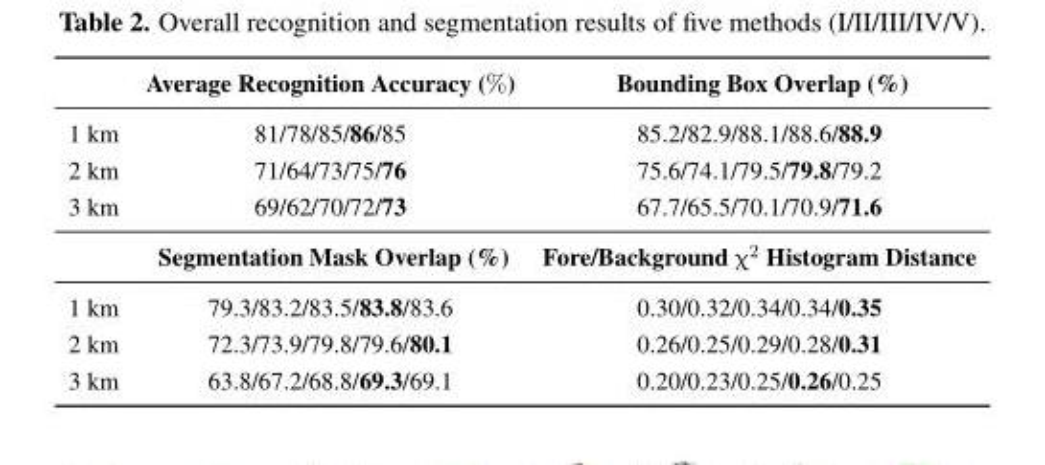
<table><thead><tr><td></td><td>Average Recognition Accuracy (%)</td><td>Bounding Box Overlap (%)</td></tr></thead><tbody><tr><td>1 km</td><td>81/78/85/86/85</td><td>85.2/82.9/88.1/88.6/88.9</td></tr><tr><td>2 km</td><td>71/64/73/75/76</td><td>75.6/74.1/79.5/79.8/79.2</td></tr><tr><td rowspan="2">3 km</td><td>69/62/70/72/73</td><td>67.7/65.5/70.1/70.9/71.6</td></tr><tr><td>Segmentation Mask Overlap (%)</td><td>Fore/Background χ<sup>2</sup> Histogram Distance</td></tr><tr><td>1 km</td><td>79.3/83.2/83.5/83.8/83.6</td><td>0.30/0.32/0.34/0.34/0.35</td></tr><tr><td>2 km</td><td>72.3/73.9/79.8/79.6/80.1</td><td>0.26/0.25/0.29/0.28/0.31</td></tr><tr><td>3 km</td><td>63.8/67.2/68.8/69.3/69.1</td><td>0.20/0.23/0.25/0.26/0.25</td></tr></tbody></table>